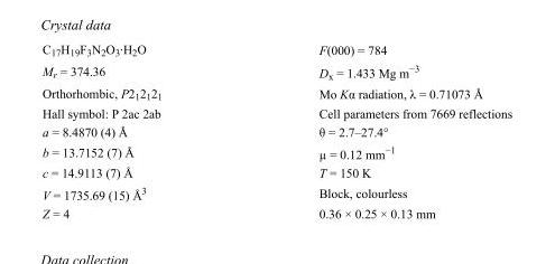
<table><tbody><tr><td>C<sub>17</sub>H<sub>19</sub>F<sub>3</sub>N<sub>2</sub>O<sub>3</sub>·H<sub>2</sub>O</td><td>F(000) = 784</td></tr><tr><td>M<sub>r</sub> = 374.36</td><td>D<sub>x</sub> = 1.433 Mg m<sup>−3</sup></td></tr><tr><td>Orthorhombic, P2<sub>1</sub>2<sub>1</sub>2<sub>1</sub></td><td>Mo Kα radiation, λ = 0.71073 Å</td></tr><tr><td>Hall symbol: P 2ac 2ab</td><td>Cell parameters from 7669 reflections</td></tr><tr><td>a = 8.4870 (4) Å</td><td>θ = 2.7–27.4°</td></tr><tr><td>b = 13.7152 (7) Å</td><td>µ = 0.12 mm<sup>−1</sup></td></tr><tr><td>c = 14.9113 (7) Å</td><td>T = 150 K</td></tr><tr><td>V = 1735.69 (15) Å<sup>3</sup></td><td>Block, colourless</td></tr><tr><td>Z = 4</td><td>0.36 × 0.25 × 0.13 mm</td></tr></tbody></table>